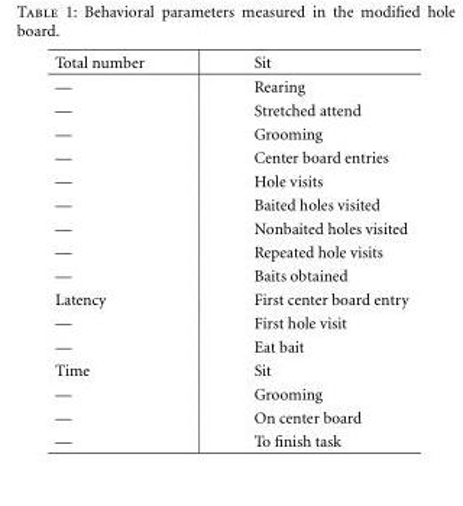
<table><tbody><tr><td>Total number</td><td>Sit</td></tr><tr><td>—</td><td>Rearing</td></tr><tr><td>—</td><td>Stretched attend</td></tr><tr><td>—</td><td>Grooming</td></tr><tr><td>—</td><td>Center board entries</td></tr><tr><td>—</td><td>Hole visits</td></tr><tr><td>—</td><td>Baited holes visited</td></tr><tr><td>—</td><td>Nonbaited holes visited</td></tr><tr><td>—</td><td>Repeated hole visits</td></tr><tr><td>—</td><td>Baits obtained</td></tr><tr><td>Latency</td><td>First center board entry</td></tr><tr><td>—</td><td>First hole visit</td></tr><tr><td>—</td><td>Eat bait</td></tr><tr><td>Time</td><td>Sit</td></tr><tr><td>—</td><td>Grooming</td></tr><tr><td>—</td><td>On center board</td></tr><tr><td>—</td><td>To finish task</td></tr></tbody></table>